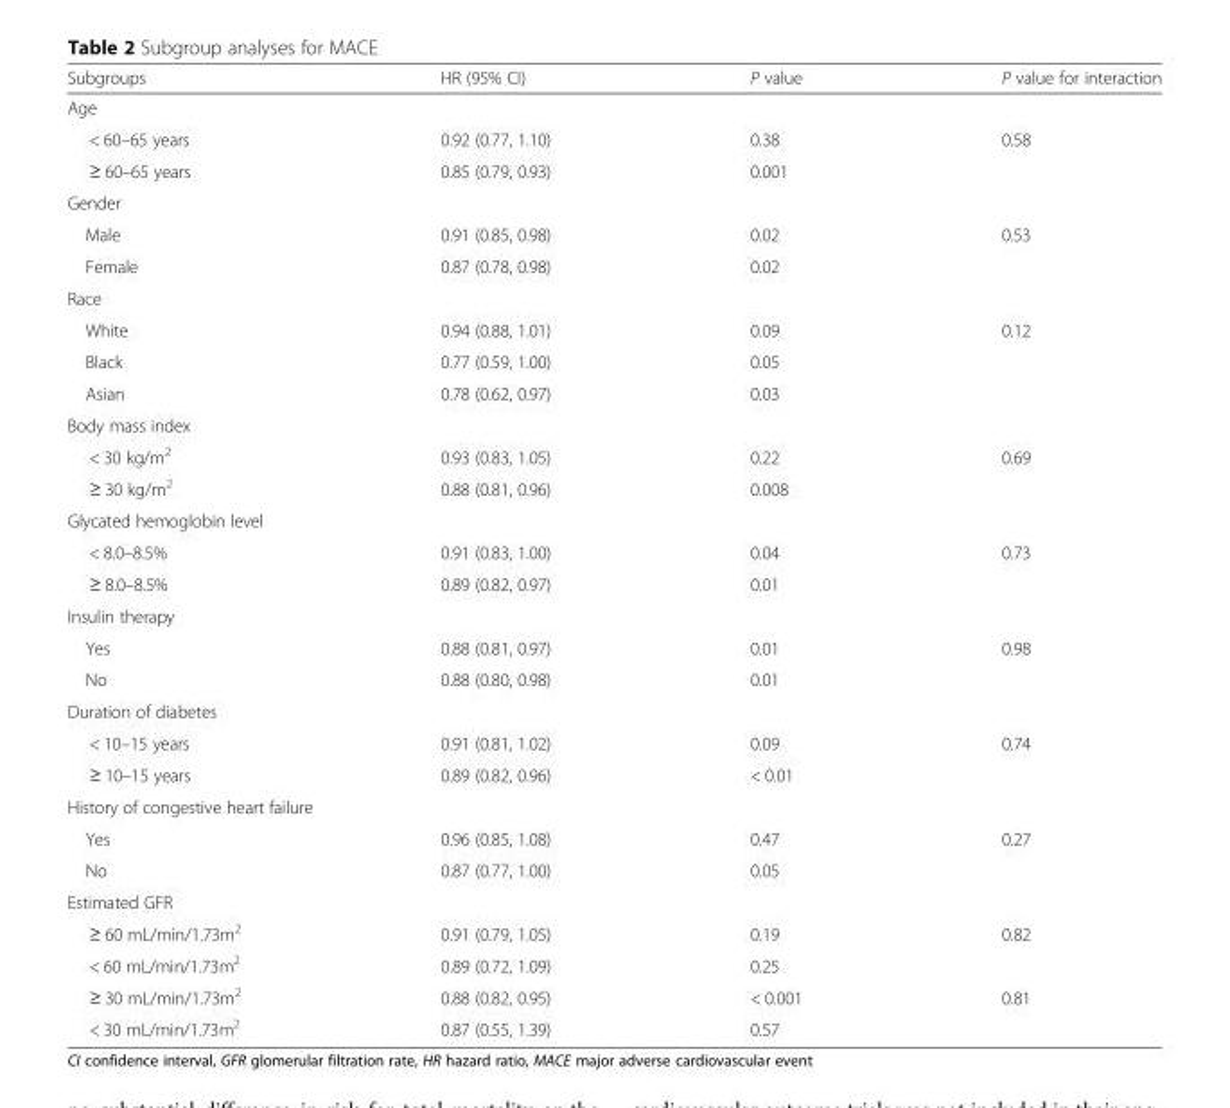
<table><thead><tr><td>Subgroups</td><td>HR (95% CI)</td><td>P value</td><td>P value for interaction</td></tr></thead><tbody><tr><td colspan="4">Age</td></tr><tr><td>&lt; 60–65 years</td><td>0.92 (0.77, 1.10)</td><td>0.38</td><td>0.58</td></tr><tr><td>≥ 60–65 years</td><td>0.85 (0.79, 0.93)</td><td>0.001</td><td></td></tr><tr><td colspan="4">Gender</td></tr><tr><td>Male</td><td>0.91 (0.85, 0.98)</td><td>0.02</td><td>0.53</td></tr><tr><td>Female</td><td>0.87 (0.78, 0.98)</td><td>0.02</td><td></td></tr><tr><td colspan="4">Race</td></tr><tr><td>White</td><td>0.94 (0.88, 1.01)</td><td>0.09</td><td>0.12</td></tr><tr><td>Black</td><td>0.77 (0.59, 1.00)</td><td>0.05</td><td></td></tr><tr><td>Asian</td><td>0.78 (0.62, 0.97)</td><td>0.03</td><td></td></tr><tr><td colspan="4">Body mass index</td></tr><tr><td>&lt; 30 kg/m<sup>2</sup></td><td>0.93 (0.83, 1.05)</td><td>0.22</td><td>0.69</td></tr><tr><td>≥ 30 kg/m<sup>2</sup></td><td>0.88 (0.81, 0.96)</td><td>0.008</td><td></td></tr><tr><td colspan="4">Glycated hemoglobin level</td></tr><tr><td>&lt; 8.0–8.5%</td><td>0.91 (0.83, 1.00)</td><td>0.04</td><td>0.73</td></tr><tr><td>≥ 8.0–8.5%</td><td>0.89 (0.82, 0.97)</td><td>0.01</td><td></td></tr><tr><td colspan="4">Insulin therapy</td></tr><tr><td>Yes</td><td>0.88 (0.81, 0.97)</td><td>0.01</td><td>0.98</td></tr><tr><td>No</td><td>0.88 (0.80, 0.98)</td><td>0.01</td><td></td></tr><tr><td colspan="4">Duration of diabetes</td></tr><tr><td>&lt; 10–15 years</td><td>0.91 (0.81, 1.02)</td><td>0.09</td><td>0.74</td></tr><tr><td>≥ 10–15 years</td><td>0.89 (0.82, 0.96)</td><td>&lt; 0.01</td><td></td></tr><tr><td colspan="4">History of congestive heart failure</td></tr><tr><td>Yes</td><td>0.96 (0.85, 1.08)</td><td>0.47</td><td>0.27</td></tr><tr><td>No</td><td>0.87 (0.77, 1.00)</td><td>0.05</td><td></td></tr><tr><td colspan="4">Estimated GFR</td></tr><tr><td>≥ 60 mL/min/1.73m<sup>2</sup></td><td>0.91 (0.79, 1.05)</td><td>0.19</td><td>0.82</td></tr><tr><td>&lt; 60 mL/min/1.73m<sup>2</sup></td><td>0.89 (0.72, 1.09)</td><td>0.25</td><td></td></tr><tr><td>≥ 30 mL/min/1.73m<sup>2</sup></td><td>0.88 (0.82, 0.95)</td><td>&lt; 0.001</td><td>0.81</td></tr><tr><td>&lt; 30 mL/min/1.73m<sup>2</sup></td><td>0.87 (0.55, 1.39)</td><td>0.57</td><td></td></tr></tbody></table>